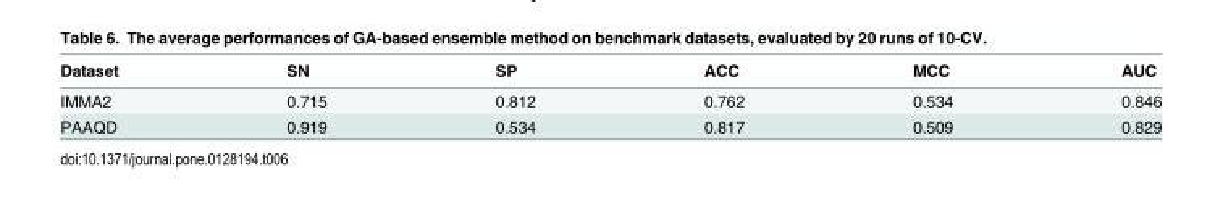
<table><thead><tr><td>Dataset</td><td>SN</td><td>SP</td><td>ACC</td><td>MCC</td><td>AUC</td></tr></thead><tbody><tr><td>IMMA2</td><td>0.715</td><td>0.812</td><td>0.762</td><td>0.534</td><td>0.846</td></tr><tr><td>PAAQD</td><td>0.919</td><td>0.534</td><td>0.817</td><td>0.509</td><td>0.829</td></tr></tbody></table>